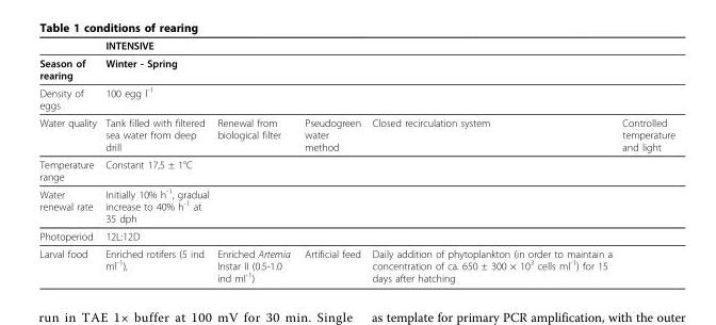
<table><thead><tr><td></td><td>INTENSIVE</td></tr></thead><tbody><tr><td>Season of rearing</td><td>Winter - Spring</td></tr><tr><td>Density of eggs</td><td>100 egg l<sup>-1</sup></td></tr><tr><td>Water quality</td><td>Tank filled with filtered sea water from deep drill Renewal from biological filter Pseudogreen water method Closed recirculation system Controlled temperature and light</td></tr><tr><td>Temperature range</td><td>Constant 17,5 ± 1°C</td></tr><tr><td>Water renewal rate</td><td>Initially 10% h<sup>-1</sup>, gradual increase to 40% h<sup>-1</sup> at 35 dph</td></tr><tr><td>Photoperiod</td><td>12L:12D</td></tr><tr><td>Larval food</td><td>Enriched rotifers (5 ind ml<sup>-1</sup>), Enriched Artemia Instar II (0.5-1.0 ind ml<sup>-1</sup>) Artificial feed Daily addition of phytoplankton (in order to maintain a concentration of ca. 650 ± 300 × 10<sup>3</sup> cells ml<sup>-1</sup>) for 15 days after hatching</td></tr></tbody></table>